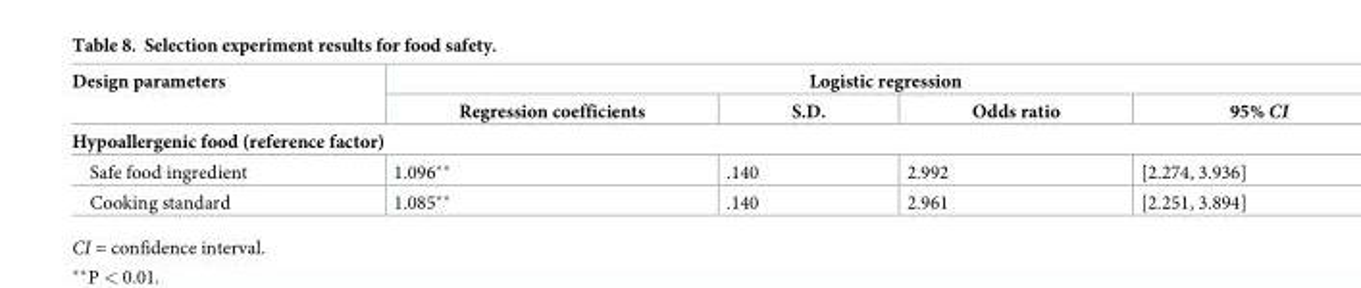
<table><thead><tr><td rowspan="2">Design parameters</td><td colspan="4">Logistic regression</td></tr><tr><td>Regression coefficients</td><td>S.D.</td><td>Odds ratio</td><td>95% CI</td></tr></thead><tbody><tr><td colspan="5">Hypoallergenic food (reference factor)</td></tr><tr><td>Safe food ingredient</td><td>1.096**</td><td>.140</td><td>2.992</td><td>[2.274, 3.936]</td></tr><tr><td>Cooking standard</td><td>1.085**</td><td>.140</td><td>2.961</td><td>[2.251, 3.894]</td></tr></tbody></table>